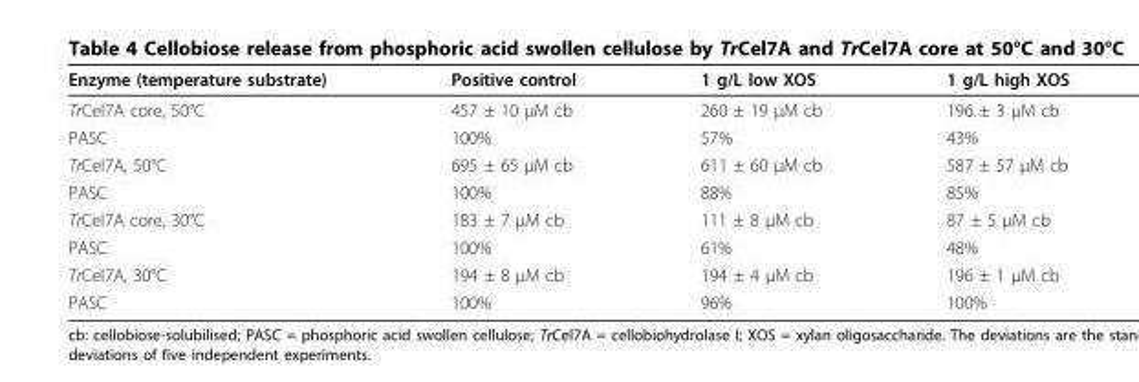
<table><thead><tr><td>Enzyme (temperature substrate)</td><td>Positive control</td><td>1 g/L low XOS</td><td>1 g/L high XOS</td></tr></thead><tbody><tr><td>TrCel7A core, 50°C</td><td>457 ± 10 μM cb</td><td>260 ± 19 μM cb</td><td>196 ± 3 μM cb</td></tr><tr><td>PASC</td><td>100%</td><td>57%</td><td>43%</td></tr><tr><td>TrCel7A, 50°C</td><td>695 ± 65 μM cb</td><td>611 ± 60 μM cb</td><td>587 ± 57 μM cb</td></tr><tr><td>PASC</td><td>100%</td><td>88%</td><td>85%</td></tr><tr><td>TrCel7A core, 30°C</td><td>183 ± 7 μM cb</td><td>111 ± 8 μM cb</td><td>87 ± 5 μM cb</td></tr><tr><td>PASC</td><td>100%</td><td>61%</td><td>48%</td></tr><tr><td>TrCel7A, 30°C</td><td>194 ± 8 μM cb</td><td>194 ± 4 μM cb</td><td>196 ± 1 μM cb</td></tr><tr><td>PASC</td><td>100%</td><td>96%</td><td>100%</td></tr></tbody></table>